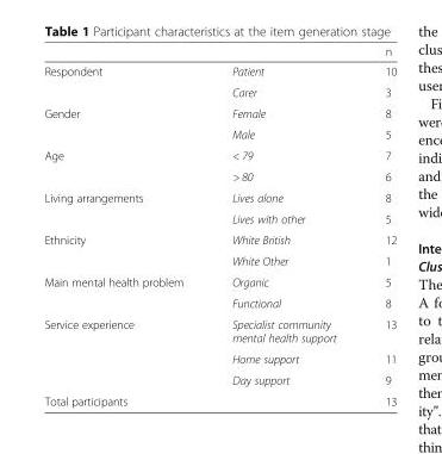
<table><thead><tr><td></td><td></td><td>n</td></tr></thead><tbody><tr><td rowspan="2">Respondent</td><td>Patient</td><td>10</td></tr><tr><td>Carer</td><td>3</td></tr><tr><td rowspan="2">Gender</td><td>Female</td><td>8</td></tr><tr><td>Male</td><td>5</td></tr><tr><td rowspan="2">Age</td><td>&lt; 79</td><td>7</td></tr><tr><td>&gt; 80</td><td>6</td></tr><tr><td rowspan="2">Living arrangements</td><td>Lives alone</td><td>8</td></tr><tr><td>Lives with other</td><td>5</td></tr><tr><td rowspan="2">Ethnicity</td><td>White British</td><td>12</td></tr><tr><td>White Other</td><td>1</td></tr><tr><td rowspan="2">Main mental health problem</td><td>Organic</td><td>5</td></tr><tr><td>Functional</td><td>8</td></tr><tr><td rowspan="3">Service experience</td><td>Specialist community mental health support</td><td>13</td></tr><tr><td>Home support</td><td>11</td></tr><tr><td>Day support</td><td>9</td></tr><tr><td colspan="2">Total participants</td><td>13</td></tr></tbody></table>